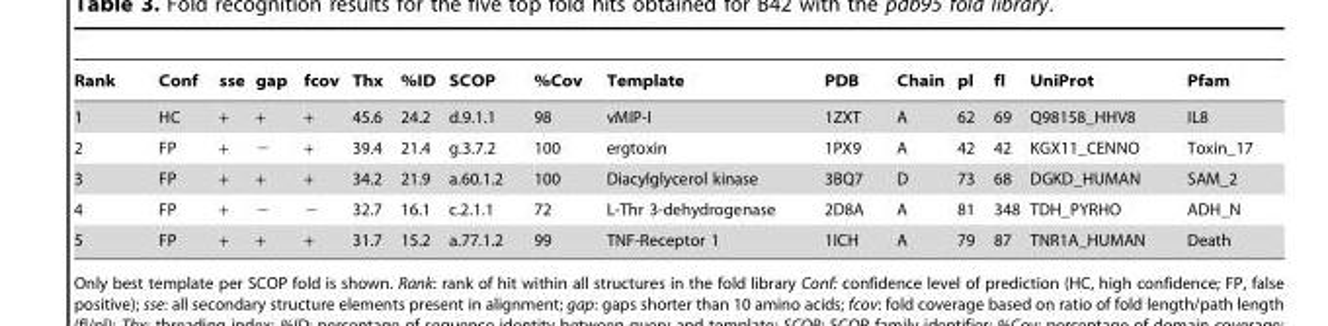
<table><thead><tr><td>Rank</td><td>Conf</td><td>sse</td><td>gap</td><td>fcov</td><td>Thx</td><td>%ID</td><td>SCOP</td><td>%Cov</td><td>Template</td><td>PDB</td><td>Chain</td><td>pl</td><td>fl</td><td>UniProt</td><td>Pfam</td></tr></thead><tbody><tr><td>1</td><td>HC</td><td>+</td><td>+</td><td>+</td><td>45.6</td><td>24.2</td><td>d.9.1.1</td><td>98</td><td>vMIP-I</td><td>1ZXT</td><td>A</td><td>62</td><td>69</td><td>Q98158_HHV8</td><td>IL8</td></tr><tr><td>2</td><td>FP</td><td>+</td><td>−</td><td>+</td><td>39.4</td><td>21.4</td><td>g.3.7.2</td><td>100</td><td>ergtoxin</td><td>1PX9</td><td>A</td><td>42</td><td>42</td><td>KGX11_CENNO</td><td>Toxin_17</td></tr><tr><td>3</td><td>FP</td><td>+</td><td>+</td><td>+</td><td>34.2</td><td>21.9</td><td>a.60.1.2</td><td>100</td><td>Diacylglycerol kinase</td><td>3BQ7</td><td>D</td><td>73</td><td>68</td><td>DGKD_HUMAN</td><td>SAM_2</td></tr><tr><td>4</td><td>FP</td><td>+</td><td>−</td><td>−</td><td>32.7</td><td>16.1</td><td>c.2.1.1</td><td>72</td><td>L-Thr 3-dehydrogenase</td><td>2D8A</td><td>A</td><td>81</td><td>348</td><td>TDH_PYRHO</td><td>ADH_N</td></tr><tr><td>5</td><td>FP</td><td>+</td><td>+</td><td>+</td><td>31.7</td><td>15.2</td><td>a.77.1.2</td><td>99</td><td>TNF-Receptor 1</td><td>1ICH</td><td>A</td><td>79</td><td>87</td><td>TNR1A_HUMAN</td><td>Death</td></tr></tbody></table>